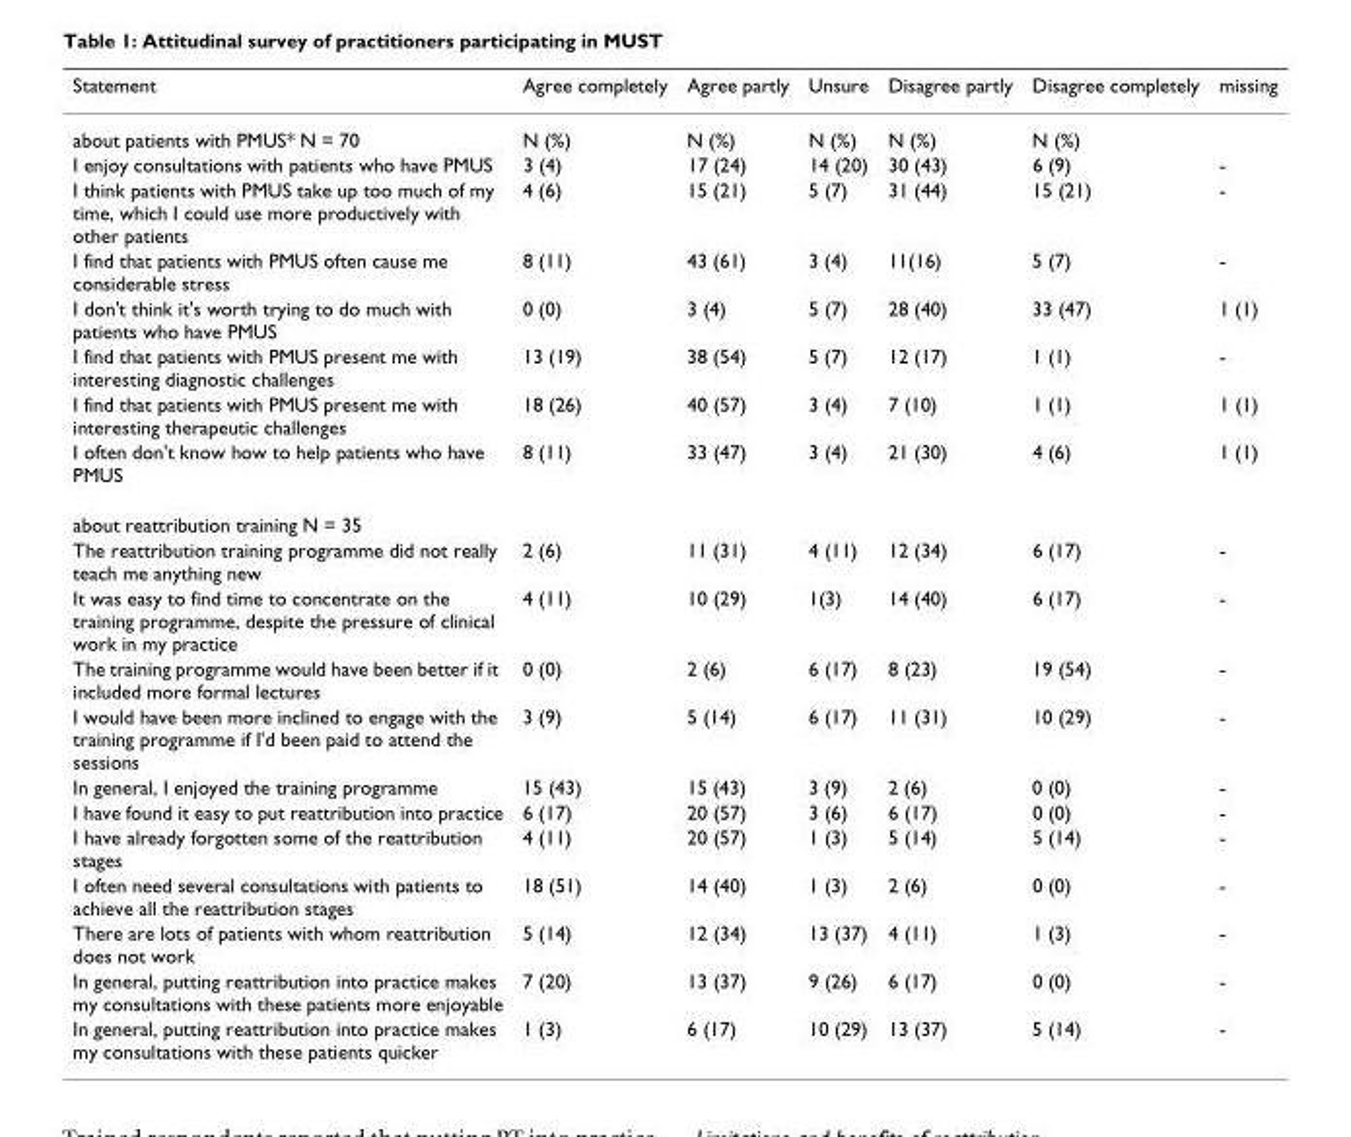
<table><thead><tr><td>Statement</td><td>Agree completely</td><td>Agree partly</td><td>Unsure</td><td>Disagree partly</td><td>Disagree completely</td><td>missing</td></tr></thead><tbody><tr><td>about patients with PMUS* N = 70</td><td>N (%)</td><td>N (%)</td><td>N (%)</td><td>N (%)</td><td>N (%)</td><td></td></tr><tr><td>I enjoy consultations with patients who have PMUS</td><td>3 (4)</td><td>17 (24)</td><td>14 (20)</td><td>30 (43)</td><td>6 (9)</td><td>-</td></tr><tr><td>I think patients with PMUS take up too much of my time, which I could use more productively with other patients</td><td>4 (6)</td><td>15 (21)</td><td>5 (7)</td><td>31 (44)</td><td>15 (21)</td><td>-</td></tr><tr><td>I find that patients with PMUS often cause me considerable stress</td><td>8 (11)</td><td>43 (61)</td><td>3 (4)</td><td>11(16)</td><td>5 (7)</td><td>-</td></tr><tr><td>I don&#x27;t think it&#x27;s worth trying to do much with patients who have PMUS</td><td>0 (0)</td><td>3 (4)</td><td>5 (7)</td><td>28 (40)</td><td>33 (47)</td><td>1 (1)</td></tr><tr><td>I find that patients with PMUS present me with interesting diagnostic challenges</td><td>13 (19)</td><td>38 (54)</td><td>5 (7)</td><td>12 (17)</td><td>1 (1)</td><td>-</td></tr><tr><td>I find that patients with PMUS present me with interesting therapeutic challenges</td><td>18 (26)</td><td>40 (57)</td><td>3 (4)</td><td>7 (10)</td><td>1 (1)</td><td>1 (1)</td></tr><tr><td>I often don&#x27;t know how to help patients who have PMUS</td><td>8 (11)</td><td>33 (47)</td><td>3 (4)</td><td>21 (30)</td><td>4 (6)</td><td>1 (1)</td></tr><tr><td colspan="7">about reattribution training N = 35</td></tr><tr><td>The reattribution training programme did not really teach me anything new</td><td>2 (6)</td><td>11 (31)</td><td>4 (11)</td><td>12 (34)</td><td>6 (17)</td><td>-</td></tr><tr><td>It was easy to find time to concentrate on the training programme, despite the pressure of clinical work in my practice</td><td>4 (11)</td><td>10 (29)</td><td>1(3)</td><td>14 (40)</td><td>6 (17)</td><td>-</td></tr><tr><td>The training programme would have been better if it included more formal lectures</td><td>0 (0)</td><td>2 (6)</td><td>6 (17)</td><td>8 (23)</td><td>19 (54)</td><td>-</td></tr><tr><td>I would have been more inclined to engage with the training programme if I&#x27;d been paid to attend the sessions</td><td>3 (9)</td><td>5 (14)</td><td>6 (17)</td><td>11 (31)</td><td>10 (29)</td><td>-</td></tr><tr><td>In general, I enjoyed the training programme</td><td>15 (43)</td><td>15 (43)</td><td>3 (9)</td><td>2 (6)</td><td>0 (0)</td><td>-</td></tr><tr><td>I have found it easy to put reattribution into practice</td><td>6 (17)</td><td>20 (57)</td><td>3 (6)</td><td>6 (17)</td><td>0 (0)</td><td>-</td></tr><tr><td>I have already forgotten some of the reattribution stages</td><td>4 (11)</td><td>20 (57)</td><td>1 (3)</td><td>5 (14)</td><td>5 (14)</td><td>-</td></tr><tr><td>I often need several consultations with patients to achieve all the reattribution stages</td><td>18 (51)</td><td>14 (40)</td><td>1 (3)</td><td>2 (6)</td><td>0 (0)</td><td>-</td></tr><tr><td>There are lots of patients with whom reattribution does not work</td><td>5 (14)</td><td>12 (34)</td><td>13 (37)</td><td>4 (11)</td><td>1 (3)</td><td>-</td></tr><tr><td>In general, putting reattribution into practice makes my consultations with these patients more enjoyable</td><td>7 (20)</td><td>13 (37)</td><td>9 (26)</td><td>6 (17)</td><td>0 (0)</td><td>-</td></tr><tr><td>In general, putting reattribution into practice makes my consultations with these patients quicker</td><td>1 (3)</td><td>6 (17)</td><td>10 (29)</td><td>13 (37)</td><td>5 (14)</td><td>-</td></tr></tbody></table>